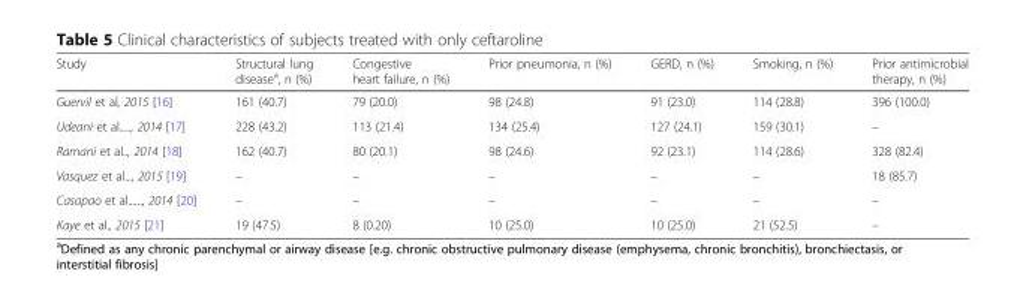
<table><thead><tr><td>Study</td><td>Structural lung disease<sup>a</sup>, n (%)</td><td>Congestive heart failure, n (%)</td><td>Prior pneumonia, n (%)</td><td>GERD, n (%)</td><td>Smoking, n (%)</td><td>Prior antimicrobial therapy, n (%)</td></tr></thead><tbody><tr><td>Guervil et al, 2015 [16]</td><td>161 (40.7)</td><td>79 (20.0)</td><td>98 (24.8)</td><td>91 (23.0)</td><td>114 (28.8)</td><td>396 (100.0)</td></tr><tr><td>Udeani et al....., 2014 [17]</td><td>228 (43.2)</td><td>113 (21.4)</td><td>134 (25.4)</td><td>127 (24.1)</td><td>159 (30.1)</td><td>–</td></tr><tr><td>Ramani et al.., 2014 [18]</td><td>162 (40.7)</td><td>80 (20.1)</td><td>98 (24.6)</td><td>92 (23.1)</td><td>114 (28.6)</td><td>328 (82.4)</td></tr><tr><td>Vasquez et al..., 2015 [19]</td><td>–</td><td>–</td><td>–</td><td>–</td><td>–</td><td>18 (85.7)</td></tr><tr><td>Casapao et al......, 2014 [20]</td><td>–</td><td>–</td><td>–</td><td>–</td><td>–</td><td>–</td></tr><tr><td>Kaye et al., 2015 [21]</td><td>19 (47.5)</td><td>8 (0.20)</td><td>10 (25.0)</td><td>10 (25.0)</td><td>21 (52.5)</td><td>–</td></tr></tbody></table>